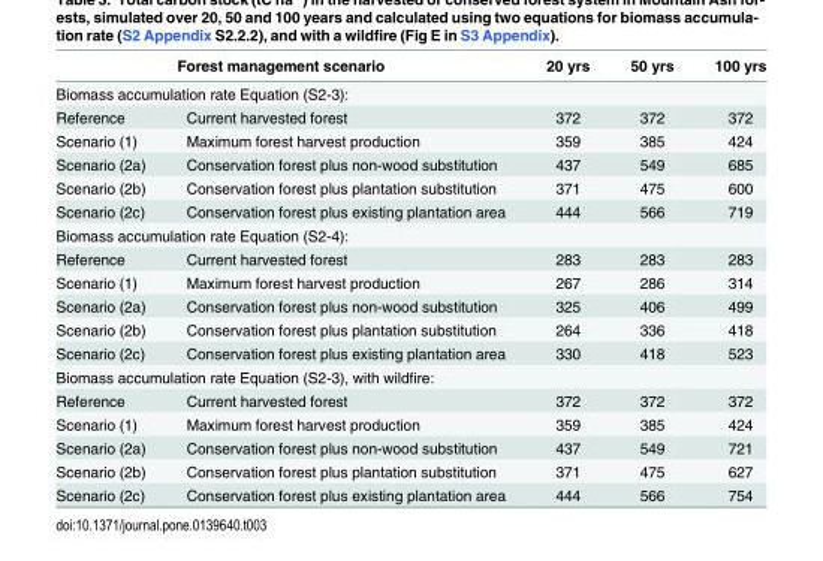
<table><thead><tr><td colspan="2">Forest management scenario</td><td>20 yrs</td><td>50 yrs</td><td>100 yrs</td></tr><tr><td colspan="5">Biomass accumulation rate Equation (S2-3):</td></tr><tr><td>Reference</td><td>Current harvested forest</td><td>372</td><td>372</td><td>372</td></tr></thead><tbody><tr><td>Scenario (1)</td><td>Maximum forest harvest production</td><td>359</td><td>385</td><td>424</td></tr><tr><td>Scenario (2a)</td><td>Conservation forest plus non-wood substitution</td><td>437</td><td>549</td><td>685</td></tr><tr><td>Scenario (2b)</td><td>Conservation forest plus plantation substitution</td><td>371</td><td>475</td><td>600</td></tr><tr><td>Scenario (2c)</td><td>Conservation forest plus existing plantation area</td><td>444</td><td>566</td><td>719</td></tr><tr><td colspan="5">Biomass accumulation rate Equation (S2-4):</td></tr><tr><td>Reference</td><td>Current harvested forest</td><td>283</td><td>283</td><td>283</td></tr><tr><td>Scenario (1)</td><td>Maximum forest harvest production</td><td>267</td><td>286</td><td>314</td></tr><tr><td>Scenario (2a)</td><td>Conservation forest plus non-wood substitution</td><td>325</td><td>406</td><td>499</td></tr><tr><td>Scenario (2b)</td><td>Conservation forest plus plantation substitution</td><td>264</td><td>336</td><td>418</td></tr><tr><td>Scenario (2c)</td><td>Conservation forest plus existing plantation area</td><td>330</td><td>418</td><td>523</td></tr><tr><td colspan="5">Biomass accumulation rate Equation (S2-3), with wildfire:</td></tr><tr><td>Reference</td><td>Current harvested forest</td><td>372</td><td>372</td><td>372</td></tr><tr><td>Scenario (1)</td><td>Maximum forest harvest production</td><td>359</td><td>385</td><td>424</td></tr><tr><td>Scenario (2a)</td><td>Conservation forest plus non-wood substitution</td><td>437</td><td>549</td><td>721</td></tr><tr><td>Scenario (2b)</td><td>Conservation forest plus plantation substitution</td><td>371</td><td>475</td><td>627</td></tr><tr><td>Scenario (2c)</td><td>Conservation forest plus existing plantation area</td><td>444</td><td>566</td><td>754</td></tr></tbody></table>